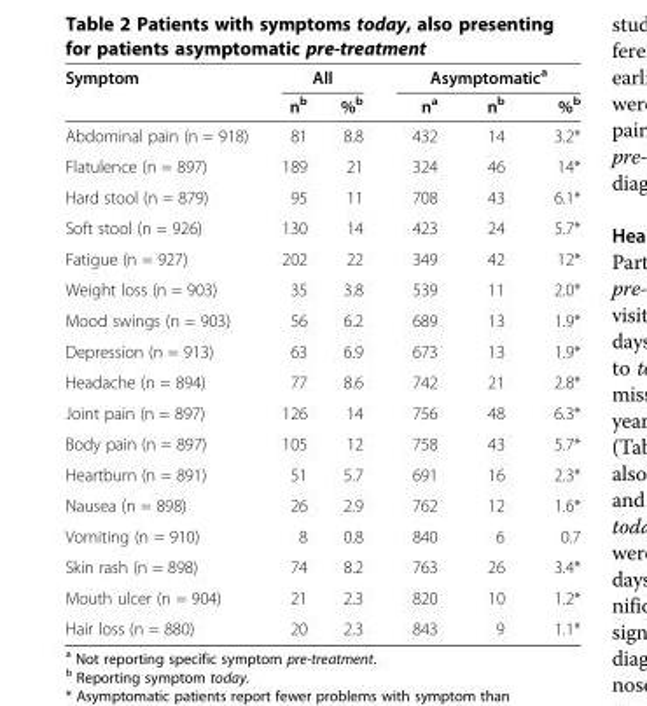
<table><thead><tr><td rowspan="2">Symptom</td><td colspan="2">All</td><td colspan="3">Asymptomatic<sup>a</sup></td></tr><tr><td>n<sup>b</sup></td><td>%<sup>b</sup></td><td>n<sup>a</sup></td><td>n<sup>b</sup></td><td>%<sup>b</sup></td></tr></thead><tbody><tr><td>Abdominal pain (n = 918)</td><td>81</td><td>8.8</td><td>432</td><td>14</td><td>3.2*</td></tr><tr><td>Flatulence (n = 897)</td><td>189</td><td>21</td><td>324</td><td>46</td><td>14*</td></tr><tr><td>Hard stool (n = 879)</td><td>95</td><td>11</td><td>708</td><td>43</td><td>6.1*</td></tr><tr><td>Soft stool (n = 926)</td><td>130</td><td>14</td><td>423</td><td>24</td><td>5.7*</td></tr><tr><td>Fatigue (n = 927)</td><td>202</td><td>22</td><td>349</td><td>42</td><td>12*</td></tr><tr><td>Weight loss (n = 903)</td><td>35</td><td>3.8</td><td>539</td><td>11</td><td>2.0*</td></tr><tr><td>Mood swings (n = 903)</td><td>56</td><td>6.2</td><td>689</td><td>13</td><td>1.9*</td></tr><tr><td>Depression (n = 913)</td><td>63</td><td>6.9</td><td>673</td><td>13</td><td>1.9*</td></tr><tr><td>Headache (n = 894)</td><td>77</td><td>8.6</td><td>742</td><td>21</td><td>2.8*</td></tr><tr><td>Joint pain (n = 897)</td><td>126</td><td>14</td><td>756</td><td>48</td><td>6.3*</td></tr><tr><td>Body pain (n = 897)</td><td>105</td><td>12</td><td>758</td><td>43</td><td>5.7*</td></tr><tr><td>Heartburn (n = 891)</td><td>51</td><td>5.7</td><td>691</td><td>16</td><td>2.3*</td></tr><tr><td>Nausea (n = 898)</td><td>26</td><td>2.9</td><td>762</td><td>12</td><td>1.6*</td></tr><tr><td>Vomiting (n = 910)</td><td>8</td><td>0.8</td><td>840</td><td>6</td><td>0.7</td></tr><tr><td>Skin rash (n = 898)</td><td>74</td><td>8.2</td><td>763</td><td>26</td><td>3.4*</td></tr><tr><td>Mouth ulcer (n = 904)</td><td>21</td><td>2.3</td><td>820</td><td>10</td><td>1.2*</td></tr><tr><td>Hair loss (n = 880)</td><td>20</td><td>2.3</td><td>843</td><td>9</td><td>1.1*</td></tr></tbody></table>